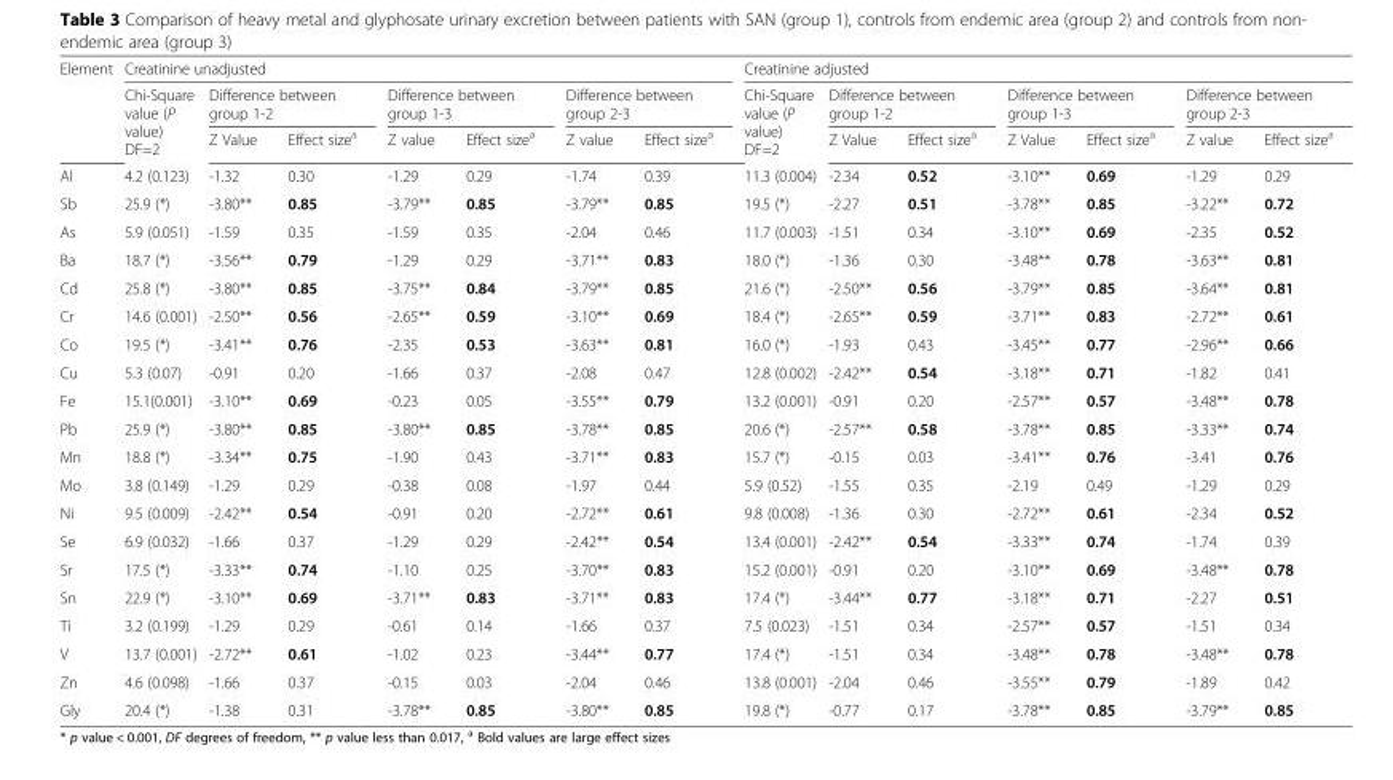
<table><thead><tr><td rowspan="3">Element</td><td colspan="7">Creatinine unadjusted</td><td colspan="7">Creatinine adjusted</td></tr><tr><td rowspan="2">Chi-Square value (P value) DF=2</td><td colspan="2">Difference between group 1-2</td><td colspan="2">Difference between group 1-3</td><td colspan="2">Difference between group 2-3</td><td rowspan="2">Chi-Square value (P value) DF=2</td><td colspan="2">Difference between group 1-2</td><td colspan="2">Difference between group 1-3</td><td colspan="2">Difference between group 2-3</td></tr><tr><td>Z Value</td><td>Effect size<sup>a</sup></td><td>Z value</td><td>Effect size<sup>a</sup></td><td>Z value</td><td>Effect size<sup>a</sup></td><td>Z Value</td><td>Effect size<sup>a</sup></td><td>Z Value</td><td>Effect size<sup>a</sup></td><td>Z value</td><td>Effect size<sup>a</sup></td></tr></thead><tbody><tr><td>Al</td><td>4.2 (0.123)</td><td>-1.32</td><td>0.30</td><td>-1.29</td><td>0.29</td><td>-1.74</td><td>0.39</td><td>11.3 (0.004)</td><td>-2.34</td><td>0.52</td><td>-3.10**</td><td>0.69</td><td>-1.29</td><td>0.29</td></tr><tr><td>Sb</td><td>25.9 (*)</td><td>-3.80**</td><td>0.85</td><td>-3.79**</td><td>0.85</td><td>-3.79**</td><td>0.85</td><td>19.5 (*)</td><td>-2.27</td><td>0.51</td><td>-3.78**</td><td>0.85</td><td>-3.22**</td><td>0.72</td></tr><tr><td>As</td><td>5.9 (0.051)</td><td>-1.59</td><td>0.35</td><td>-1.59</td><td>0.35</td><td>-2.04</td><td>0.46</td><td>11.7 (0.003)</td><td>-1.51</td><td>0.34</td><td>-3.10**</td><td>0.69</td><td>-2.35</td><td>0.52</td></tr><tr><td>Ba</td><td>18.7 (*)</td><td>-3.56**</td><td>0.79</td><td>-1.29</td><td>0.29</td><td>-3.71**</td><td>0.83</td><td>18.0 (*)</td><td>-1.36</td><td>0.30</td><td>-3.48**</td><td>0.78</td><td>-3.63**</td><td>0.81</td></tr><tr><td>Cd</td><td>25.8 (*)</td><td>-3.80**</td><td>0.85</td><td>-3.75**</td><td>0.84</td><td>-3.79**</td><td>0.85</td><td>21.6 (*)</td><td>-2.50**</td><td>0.56</td><td>-3.79**</td><td>0.85</td><td>-3.64**</td><td>0.81</td></tr><tr><td>Cr</td><td>14.6 (0.001)</td><td>-2.50**</td><td>0.56</td><td>-2.65**</td><td>0.59</td><td>-3.10**</td><td>0.69</td><td>18.4 (*)</td><td>-2.65**</td><td>0.59</td><td>-3.71**</td><td>0.83</td><td>-2.72**</td><td>0.61</td></tr><tr><td>Co</td><td>19.5 (*)</td><td>-3.41**</td><td>0.76</td><td>-2.35</td><td>0.53</td><td>-3.63**</td><td>0.81</td><td>16.0 (*)</td><td>-1.93</td><td>0.43</td><td>-3.45**</td><td>0.77</td><td>-2.96**</td><td>0.66</td></tr><tr><td>Cu</td><td>5.3 (0.07)</td><td>-0.91</td><td>0.20</td><td>-1.66</td><td>0.37</td><td>-2.08</td><td>0.47</td><td>12.8 (0.002)</td><td>-2.42**</td><td>0.54</td><td>-3.18**</td><td>0.71</td><td>-1.82</td><td>0.41</td></tr><tr><td>Fe</td><td>15.1(0.001)</td><td>-3.10**</td><td>0.69</td><td>-0.23</td><td>0.05</td><td>-3.55**</td><td>0.79</td><td>13.2 (0.001)</td><td>-0.91</td><td>0.20</td><td>-2.57**</td><td>0.57</td><td>-3.48**</td><td>0.78</td></tr><tr><td>Pb</td><td>25.9 (*)</td><td>-3.80**</td><td>0.85</td><td>-3.80**</td><td>0.85</td><td>-3.78**</td><td>0.85</td><td>20.6 (*)</td><td>-2.57**</td><td>0.58</td><td>-3.78**</td><td>0.85</td><td>-3.33**</td><td>0.74</td></tr><tr><td>Mn</td><td>18.8 (*)</td><td>-3.34**</td><td>0.75</td><td>-1.90</td><td>0.43</td><td>-3.71**</td><td>0.83</td><td>15.7 (*)</td><td>-0.15</td><td>0.03</td><td>-3.41**</td><td>0.76</td><td>-3.41</td><td>0.76</td></tr><tr><td>Mo</td><td>3.8 (0.149)</td><td>-1.29</td><td>0.29</td><td>-0.38</td><td>0.08</td><td>-1.97</td><td>0.44</td><td>5.9 (0.52)</td><td>-1.55</td><td>0.35</td><td>-2.19</td><td>0.49</td><td>-1.29</td><td>0.29</td></tr><tr><td>Ni</td><td>9.5 (0.009)</td><td>-2.42**</td><td>0.54</td><td>-0.91</td><td>0.20</td><td>-2.72**</td><td>0.61</td><td>9.8 (0.008)</td><td>-1.36</td><td>0.30</td><td>-2.72**</td><td>0.61</td><td>-2.34</td><td>0.52</td></tr><tr><td>Se</td><td>6.9 (0.032)</td><td>-1.66</td><td>0.37</td><td>-1.29</td><td>0.29</td><td>-2.42**</td><td>0.54</td><td>13.4 (0.001)</td><td>-2.42**</td><td>0.54</td><td>-3.33**</td><td>0.74</td><td>-1.74</td><td>0.39</td></tr><tr><td>Sr</td><td>17.5 (*)</td><td>-3.33**</td><td>0.74</td><td>-1.10</td><td>0.25</td><td>-3.70**</td><td>0.83</td><td>15.2 (0.001)</td><td>-0.91</td><td>0.20</td><td>-3.10**</td><td>0.69</td><td>-3.48**</td><td>0.78</td></tr><tr><td>Sn</td><td>22.9 (*)</td><td>-3.10**</td><td>0.69</td><td>-3.71**</td><td>0.83</td><td>-3.71**</td><td>0.83</td><td>17.4 (*)</td><td>-3.44**</td><td>0.77</td><td>-3.18**</td><td>0.71</td><td>-2.27</td><td>0.51</td></tr><tr><td>Ti</td><td>3.2 (0.199)</td><td>-1.29</td><td>0.29</td><td>-0.61</td><td>0.14</td><td>-1.66</td><td>0.37</td><td>7.5 (0.023)</td><td>-1.51</td><td>0.34</td><td>-2.57**</td><td>0.57</td><td>-1.51</td><td>0.34</td></tr><tr><td>V</td><td>13.7 (0.001)</td><td>-2.72**</td><td>0.61</td><td>-1.02</td><td>0.23</td><td>-3.44**</td><td>0.77</td><td>17.4 (*)</td><td>-1.51</td><td>0.34</td><td>-3.48**</td><td>0.78</td><td>-3.48**</td><td>0.78</td></tr><tr><td>Zn</td><td>4.6 (0.098)</td><td>-1.66</td><td>0.37</td><td>-0.15</td><td>0.03</td><td>-2.04</td><td>0.46</td><td>13.8 (0.001)</td><td>-2.04</td><td>0.46</td><td>-3.55**</td><td>0.79</td><td>-1.89</td><td>0.42</td></tr><tr><td>Gly</td><td>20.4 (*)</td><td>-1.38</td><td>0.31</td><td>-3.78**</td><td>0.85</td><td>-3.80**</td><td>0.85</td><td>19.8 (*)</td><td>-0.77</td><td>0.17</td><td>-3.78**</td><td>0.85</td><td>-3.79**</td><td>0.85</td></tr></tbody></table>